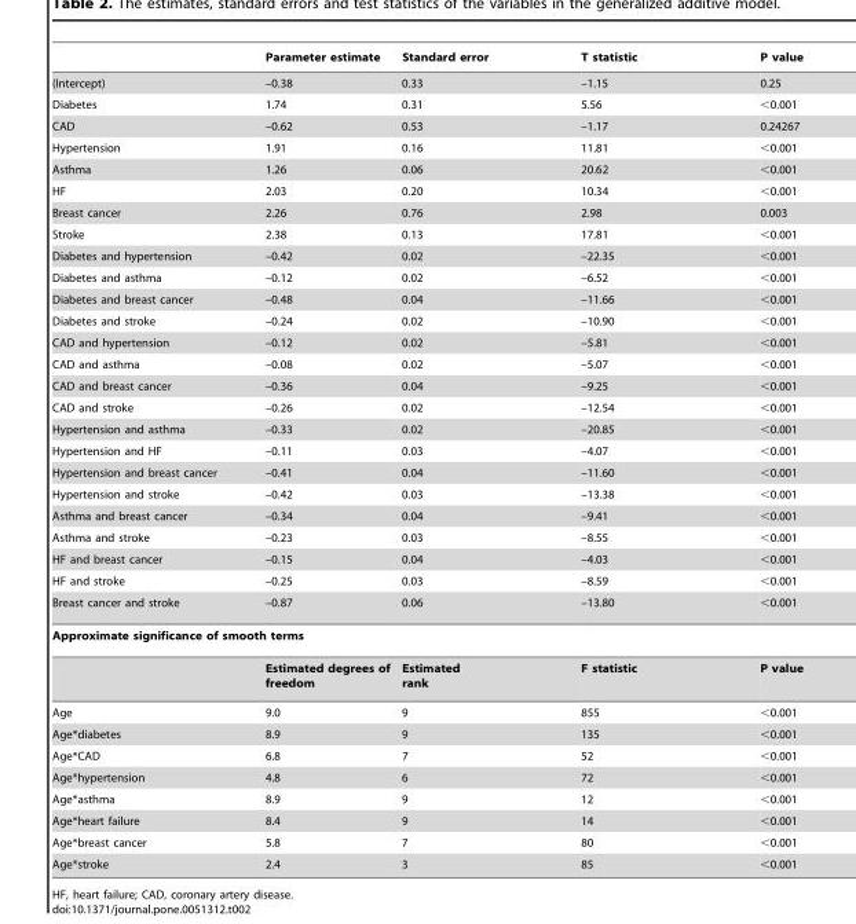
<table><thead><tr><td></td><td>Parameter estimate</td><td>Standard error</td><td>T statistic</td><td>P value</td></tr></thead><tbody><tr><td>(Intercept)</td><td>–0.38</td><td>0.33</td><td>–1.15</td><td>0.25</td></tr><tr><td>Diabetes</td><td>1.74</td><td>0.31</td><td>5.56</td><td>&lt;0.001</td></tr><tr><td>CAD</td><td>–0.62</td><td>0.53</td><td>–1.17</td><td>0.24267</td></tr><tr><td>Hypertension</td><td>1.91</td><td>0.16</td><td>11.81</td><td>&lt;0.001</td></tr><tr><td>Asthma</td><td>1.26</td><td>0.06</td><td>20.62</td><td>&lt;0.001</td></tr><tr><td>HF</td><td>2.03</td><td>0.20</td><td>10.34</td><td>&lt;0.001</td></tr><tr><td>Breast cancer</td><td>2.26</td><td>0.76</td><td>2.98</td><td>0.003</td></tr><tr><td>Stroke</td><td>2.38</td><td>0.13</td><td>17.81</td><td>&lt;0.001</td></tr><tr><td>Diabetes and hypertension</td><td>–0.42</td><td>0.02</td><td>–22.35</td><td>&lt;0.001</td></tr><tr><td>Diabetes and asthma</td><td>–0.12</td><td>0.02</td><td>–6.52</td><td>&lt;0.001</td></tr><tr><td>Diabetes and breast cancer</td><td>–0.48</td><td>0.04</td><td>–11.66</td><td>&lt;0.001</td></tr><tr><td>Diabetes and stroke</td><td>–0.24</td><td>0.02</td><td>–10.90</td><td>&lt;0.001</td></tr><tr><td>CAD and hypertension</td><td>–0.12</td><td>0.02</td><td>–5.81</td><td>&lt;0.001</td></tr><tr><td>CAD and asthma</td><td>–0.08</td><td>0.02</td><td>–5.07</td><td>&lt;0.001</td></tr><tr><td>CAD and breast cancer</td><td>–0.36</td><td>0.04</td><td>–9.25</td><td>&lt;0.001</td></tr><tr><td>CAD and stroke</td><td>–0.26</td><td>0.02</td><td>–12.54</td><td>&lt;0.001</td></tr><tr><td>Hypertension and asthma</td><td>–0.33</td><td>0.02</td><td>–20.85</td><td>&lt;0.001</td></tr><tr><td>Hypertension and HF</td><td>–0.11</td><td>0.03</td><td>–4.07</td><td>&lt;0.001</td></tr><tr><td>Hypertension and breast cancer</td><td>–0.41</td><td>0.04</td><td>–11.60</td><td>&lt;0.001</td></tr><tr><td>Hypertension and stroke</td><td>–0.42</td><td>0.03</td><td>–13.38</td><td>&lt;0.001</td></tr><tr><td>Asthma and breast cancer</td><td>–0.34</td><td>0.04</td><td>–9.41</td><td>&lt;0.001</td></tr><tr><td>Asthma and stroke</td><td>–0.23</td><td>0.03</td><td>–8.55</td><td>&lt;0.001</td></tr><tr><td>HF and breast cancer</td><td>–0.15</td><td>0.04</td><td>–4.03</td><td>&lt;0.001</td></tr><tr><td>HF and stroke</td><td>–0.25</td><td>0.03</td><td>–8.59</td><td>&lt;0.001</td></tr><tr><td>Breast cancer and stroke</td><td>–0.87</td><td>0.06</td><td>–13.80</td><td>&lt;0.001</td></tr><tr><td colspan="5">Approximate significance of smooth terms</td></tr><tr><td></td><td>Estimated degrees of freedom</td><td>Estimated rank</td><td>F statistic</td><td>P value</td></tr><tr><td>Age</td><td>9.0</td><td>9</td><td>855</td><td>&lt;0.001</td></tr><tr><td>Age*diabetes</td><td>8.9</td><td>9</td><td>135</td><td>&lt;0.001</td></tr><tr><td>Age*CAD</td><td>6.8</td><td>7</td><td>52</td><td>&lt;0.001</td></tr><tr><td>Age*hypertension</td><td>4.8</td><td>6</td><td>72</td><td>&lt;0.001</td></tr><tr><td>Age*asthma</td><td>8.9</td><td>9</td><td>12</td><td>&lt;0.001</td></tr><tr><td>Age*heart failure</td><td>8.4</td><td>9</td><td>14</td><td>&lt;0.001</td></tr><tr><td>Age*breast cancer</td><td>5.8</td><td>7</td><td>80</td><td>&lt;0.001</td></tr><tr><td>Age*stroke</td><td>2.4</td><td>3</td><td>85</td><td>&lt;0.001</td></tr></tbody></table>